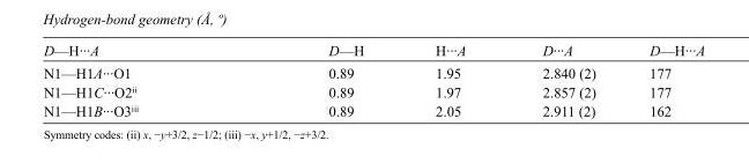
<table><tbody><tr><td>D—H···A</td><td>D—H</td><td>H···A</td><td>D···A</td><td>D—H···A</td></tr><tr><td>N1—H1A···O1</td><td>0.89</td><td>1.95</td><td>2.840 (2)</td><td>177</td></tr><tr><td>N1—H1C···O2<sup>ii</sup></td><td>0.89</td><td>1.97</td><td>2.857 (2)</td><td>177</td></tr><tr><td>N1—H1B···O3<sup>iii</sup></td><td>0.89</td><td>2.05</td><td>2.911 (2)</td><td>162</td></tr></tbody></table>